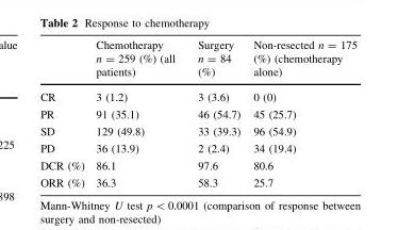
<table><thead><tr><td></td><td>Chemotherapy n = 259 (%) (all patients)</td><td>Surgery n = 84 (%)</td><td>Non-resected n = 175 (%) (chemotherapy alone)</td></tr></thead><tbody><tr><td>CR</td><td>3 (1.2)</td><td>3 (3.6)</td><td>0 (0)</td></tr><tr><td>PR</td><td>91 (35.1)</td><td>46 (54.7)</td><td>45 (25.7)</td></tr><tr><td>SD</td><td>129 (49.8)</td><td>33 (39.3)</td><td>96 (54.9)</td></tr><tr><td>PD</td><td>36 (13.9)</td><td>2 (2.4)</td><td>34 (19.4)</td></tr><tr><td>DCR (%)</td><td>86.1</td><td>97.6</td><td>80.6</td></tr><tr><td>ORR (%)</td><td>36.3</td><td>58.3</td><td>25.7</td></tr></tbody></table>